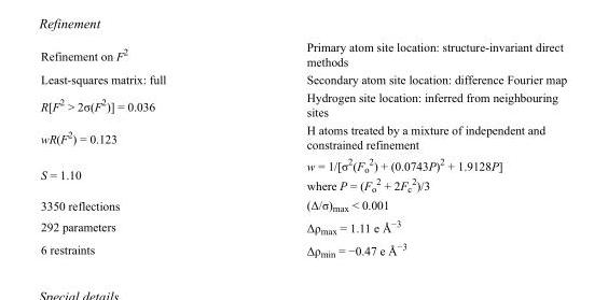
<table><tbody><tr><td>Refinement on F<sup>2</sup></td><td>Primary atom site location: structure-invariant direct methods</td></tr><tr><td>Least-squares matrix: full</td><td>Secondary atom site location: difference Fourier map</td></tr><tr><td>R[F<sup>2</sup> &gt; 2σ(F<sup>2</sup>)] = 0.036</td><td>Hydrogen site location: inferred from neighbouring sites</td></tr><tr><td>wR(F<sup>2</sup>) = 0.123</td><td>H atoms treated by a mixture of independent and constrained refinement</td></tr><tr><td>S = 1.10</td><td>w = 1/[σ<sup>2</sup>(F<sub>o</sub> <sup>2</sup>) + (0.0743P)<sup>2</sup> + 1.9128P] where P = (F<sub>o</sub> <sup>2</sup> + 2F<sub>c</sub> <sup>2</sup>)/3</td></tr><tr><td>3350 reflections</td><td>(Δ/σ)<sub>max</sub> &lt; 0.001</td></tr><tr><td>292 parameters</td><td>Δρ<sub>max</sub> = 1.11 e Å<sup>−3</sup></td></tr><tr><td>6 restraints</td><td>Δρ<sub>min</sub> = −0.47 e Å<sup>−3</sup></td></tr></tbody></table>